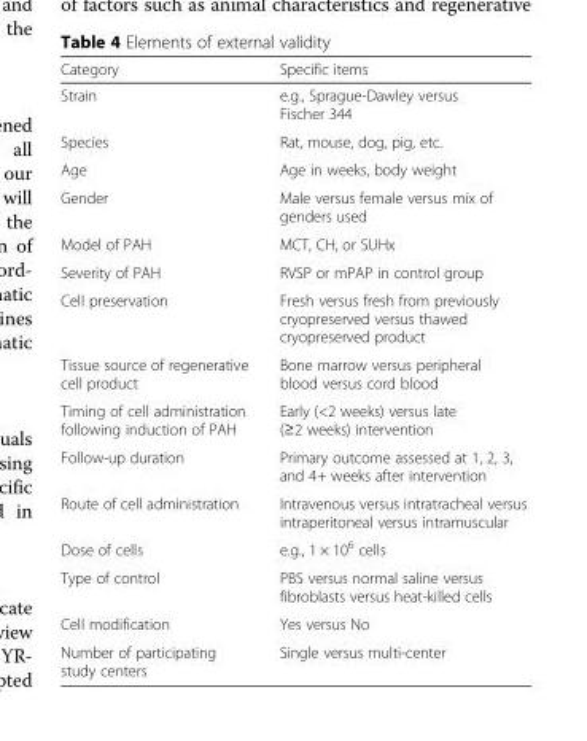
<table><thead><tr><td>Category</td><td>Specific items</td></tr></thead><tbody><tr><td>Strain</td><td>e.g., Sprague-Dawley versus Fischer 344</td></tr><tr><td>Species</td><td>Rat, mouse, dog, pig, etc.</td></tr><tr><td>Age</td><td>Age in weeks, body weight</td></tr><tr><td>Gender</td><td>Male versus female versus mix of genders used</td></tr><tr><td>Model of PAH</td><td>MCT, CH, or SUHx</td></tr><tr><td>Severity of PAH</td><td>RVSP or mPAP in control group</td></tr><tr><td>Cell preservation</td><td>Fresh versus fresh from previously cryopreserved versus thawed cryopreserved product</td></tr><tr><td>Tissue source of regenerative cell product</td><td>Bone marrow versus peripheral blood versus cord blood</td></tr><tr><td>Timing of cell administration following induction of PAH</td><td>Early (&lt;2 weeks) versus late (≥2 weeks) intervention</td></tr><tr><td>Follow-up duration</td><td>Primary outcome assessed at 1, 2, 3, and 4+ weeks after intervention</td></tr><tr><td>Route of cell administration</td><td>Intravenous versus intratracheal versus intraperitoneal versus intramuscular</td></tr><tr><td>Dose of cells</td><td>e.g., 1 × 10<sup>6</sup> cells</td></tr><tr><td>Type of control</td><td>PBS versus normal saline versus fibroblasts versus heat-killed cells</td></tr><tr><td>Cell modification</td><td>Yes versus No</td></tr><tr><td>Number of participating study centers</td><td>Single versus multi-center</td></tr></tbody></table>